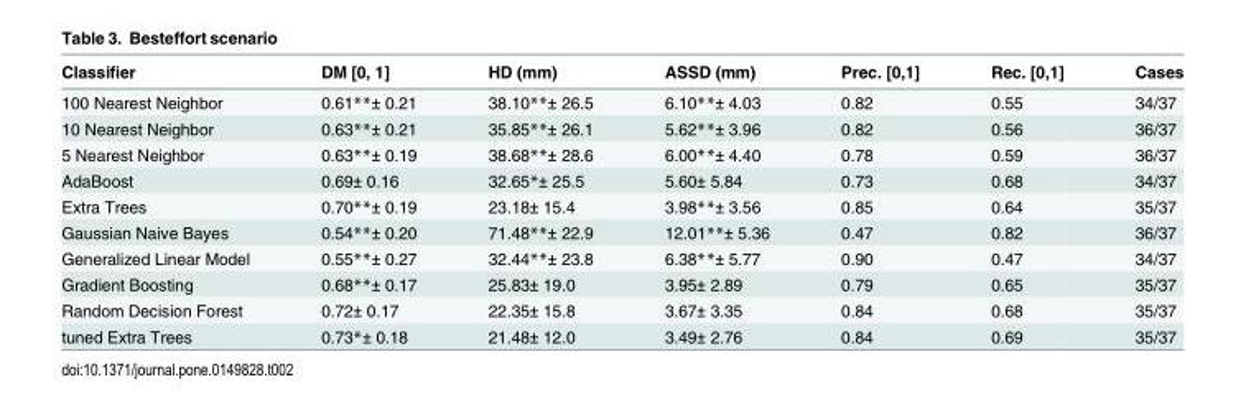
<table><thead><tr><td>Classifier</td><td>DM [0, 1]</td><td>HD (mm)</td><td>ASSD (mm)</td><td>Prec. [0,1]</td><td>Rec. [0,1]</td><td>Cases</td></tr></thead><tbody><tr><td>100 Nearest Neighbor</td><td>0.61**± 0.21</td><td>38.10**± 26.5</td><td>6.10**± 4.03</td><td>0.82</td><td>0.55</td><td>34/37</td></tr><tr><td>10 Nearest Neighbor</td><td>0.63**± 0.21</td><td>35.85**± 26.1</td><td>5.62**± 3.96</td><td>0.82</td><td>0.56</td><td>36/37</td></tr><tr><td>5 Nearest Neighbor</td><td>0.63**± 0.19</td><td>38.68**± 28.6</td><td>6.00**± 4.40</td><td>0.78</td><td>0.59</td><td>36/37</td></tr><tr><td>AdaBoost</td><td>0.69± 0.16</td><td>32.65*± 25.5</td><td>5.60± 5.84</td><td>0.73</td><td>0.68</td><td>34/37</td></tr><tr><td>Extra Trees</td><td>0.70**± 0.19</td><td>23.18± 15.4</td><td>3.98**± 3.56</td><td>0.85</td><td>0.64</td><td>35/37</td></tr><tr><td>Gaussian Naive Bayes</td><td>0.54**± 0.20</td><td>71.48**± 22.9</td><td>12.01**± 5.36</td><td>0.47</td><td>0.82</td><td>36/37</td></tr><tr><td>Generalized Linear Model</td><td>0.55**± 0.27</td><td>32.44**± 23.8</td><td>6.38**± 5.77</td><td>0.90</td><td>0.47</td><td>34/37</td></tr><tr><td>Gradient Boosting</td><td>0.68**± 0.17</td><td>25.83± 19.0</td><td>3.95± 2.89</td><td>0.79</td><td>0.65</td><td>35/37</td></tr><tr><td>Random Decision Forest</td><td>0.72± 0.17</td><td>22.35± 15.8</td><td>3.67± 3.35</td><td>0.84</td><td>0.68</td><td>35/37</td></tr><tr><td>tuned Extra Trees</td><td>0.73*± 0.18</td><td>21.48± 12.0</td><td>3.49± 2.76</td><td>0.84</td><td>0.69</td><td>35/37</td></tr></tbody></table>